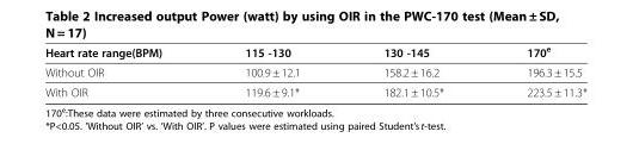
<table><thead><tr><td>Heart rate range(BPM)</td><td>115 -130</td><td>130 -145</td><td>170<sup>e</sup></td></tr></thead><tbody><tr><td>Without OIR</td><td>100.9 ± 12.1</td><td>158.2 ± 16.2</td><td>196.3 ± 15.5</td></tr><tr><td>With OIR</td><td>119.6 ± 9.1*</td><td>182.1 ± 10.5*</td><td>223.5 ± 11.3*</td></tr></tbody></table>